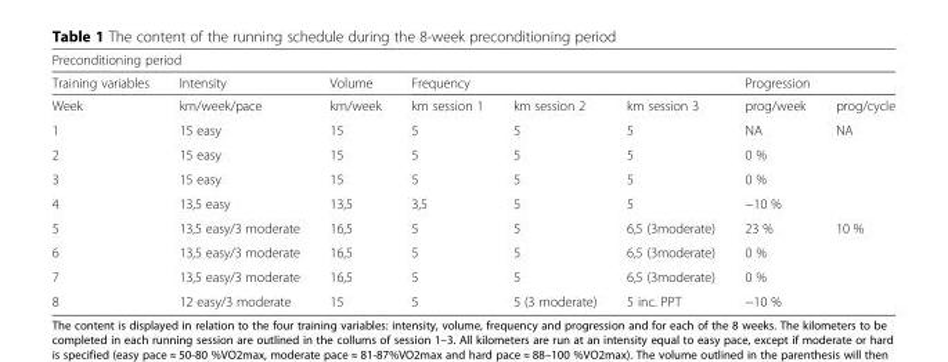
<table><thead><tr><td colspan="8">Preconditioning period</td></tr><tr><td rowspan="2">Training variables Week</td><td rowspan="2">Intensity km/week/pace</td><td rowspan="2">Volume km/week</td><td colspan="3">Frequency</td><td colspan="2">Progression</td></tr><tr><td>km session 1</td><td>km session 2</td><td>km session 3</td><td>prog/week</td><td>prog/cycle</td></tr></thead><tbody><tr><td>1</td><td>15 easy</td><td>15</td><td>5</td><td>5</td><td>5</td><td>NA</td><td rowspan="4">NA</td></tr><tr><td>2</td><td>15 easy</td><td>15</td><td>5</td><td>5</td><td>5</td><td>0 %</td></tr><tr><td>3</td><td>15 easy</td><td>15</td><td>5</td><td>5</td><td>5</td><td>0 %</td></tr><tr><td>4</td><td>13,5 easy</td><td>13,5</td><td>3,5</td><td>5</td><td>5</td><td>−10 %</td></tr><tr><td>5</td><td>13,5 easy/3 moderate</td><td>16,5</td><td>5</td><td>5</td><td>6,5 (3moderate)</td><td>23 %</td><td rowspan="4">10 %</td></tr><tr><td>6</td><td>13,5 easy/3 moderate</td><td>16,5</td><td>5</td><td>5</td><td>6,5 (3moderate)</td><td>0 %</td></tr><tr><td>7</td><td>13,5 easy/3 moderate</td><td>16,5</td><td>5</td><td>5</td><td>6,5 (3moderate)</td><td>0 %</td></tr><tr><td>8</td><td>12 easy/3 moderate</td><td>15</td><td>5</td><td>5 (3 moderate)</td><td>5 inc. PPT</td><td>−10 %</td></tr></tbody></table>